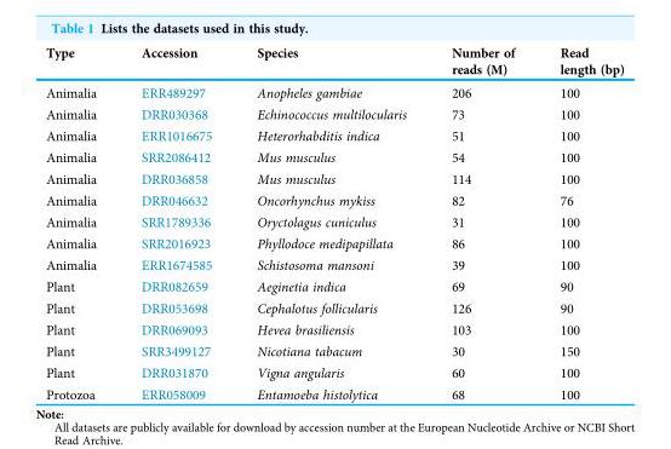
<table><thead><tr><td>Type</td><td>Accession</td><td>Species</td><td>Number of reads (M)</td><td>Read length (bp)</td></tr></thead><tbody><tr><td>Animalia</td><td>ERR489297</td><td>Anopheles gambiae</td><td>206</td><td>100</td></tr><tr><td>Animalia</td><td>DRR030368</td><td>Echinococcus multilocularis</td><td>73</td><td>100</td></tr><tr><td>Animalia</td><td>ERR1016675</td><td>Heterorhabditis indica</td><td>51</td><td>100</td></tr><tr><td>Animalia</td><td>SRR2086412</td><td>Mus musculus</td><td>54</td><td>100</td></tr><tr><td>Animalia</td><td>DRR036858</td><td>Mus musculus</td><td>114</td><td>100</td></tr><tr><td>Animalia</td><td>DRR046632</td><td>Oncorhynchus mykiss</td><td>82</td><td>76</td></tr><tr><td>Animalia</td><td>SRR1789336</td><td>Oryctolagus cuniculus</td><td>31</td><td>100</td></tr><tr><td>Animalia</td><td>SRR2016923</td><td>Phyllodoce medipapillata</td><td>86</td><td>100</td></tr><tr><td>Animalia</td><td>ERR1674585</td><td>Schistosoma mansoni</td><td>39</td><td>100</td></tr><tr><td>Plant</td><td>DRR082659</td><td>Aeginetia indica</td><td>69</td><td>90</td></tr><tr><td>Plant</td><td>DRR053698</td><td>Cephalotus follicularis</td><td>126</td><td>90</td></tr><tr><td>Plant</td><td>DRR069093</td><td>Hevea brasiliensis</td><td>103</td><td>100</td></tr><tr><td>Plant</td><td>SRR3499127</td><td>Nicotiana tabacum</td><td>30</td><td>150</td></tr><tr><td>Plant</td><td>DRR031870</td><td>Vigna angularis</td><td>60</td><td>100</td></tr><tr><td>Protozoa</td><td>ERR058009</td><td>Entamoeba histolytica</td><td>68</td><td>100</td></tr></tbody></table>